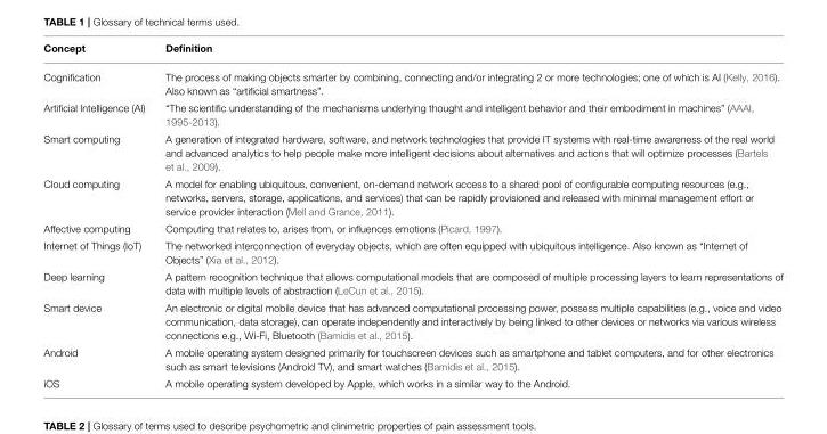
<table><thead><tr><td>Concept</td><td>Definition</td></tr></thead><tbody><tr><td>Cognification</td><td>The process of making objects smarter by combining, connecting and/or integrating 2 or more technologies; one of which is AI (Kelly, 2016). Also known as “artificial smartness”.</td></tr><tr><td>Artificial Intelligence (AI)</td><td>“The scientific understanding of the mechanisms underlying thought and intelligent behavior and their embodiment in machines” (AAAI, 1995-2013).</td></tr><tr><td>Smart computing</td><td>A generation of integrated hardware, software, and network technologies that provide IT systems with real-time awareness of the real world and advanced analytics to help people make more intelligent decisions about alternatives and actions that will optimize processes (Bartels et al., 2009).</td></tr><tr><td>Cloud computing</td><td>A model for enabling ubiquitous, convenient, on-demand network access to a shared pool of configurable computing resources (e.g., networks, servers, storage, applications, and services) that can be rapidly provisioned and released with minimal management effort or service provider interaction (Mell and Grance, 2011).</td></tr><tr><td>Affective computing</td><td>Computing that relates to, arises from, or influences emotions (Picard, 1997).</td></tr><tr><td>Internet of Things (IoT)</td><td>The networked interconnection of everyday objects, which are often equipped with ubiquitous intelligence. Also known as “Internet of Objects” (Xia et al., 2012).</td></tr><tr><td>Deep learning</td><td>A pattern recognition technique that allows computational models that are composed of multiple processing layers to learn representations of data with multiple levels of abstraction (LeCun et al., 2015).</td></tr><tr><td>Smart device</td><td>An electronic or digital mobile device that has advanced computational processing power, possess multiple capabilities (e.g., voice and video communication, data storage), can operate independently and interactively by being linked to other devices or networks via various wireless connections e.g., Wi-Fi, Bluetooth (Bamidis et al., 2015).</td></tr><tr><td>Android</td><td>A mobile operating system designed primarily for touchscreen devices such as smartphone and tablet computers, and for other electronics such as smart televisions (Android TV), and smart watches (Bamidis et al., 2015).</td></tr><tr><td>iOS</td><td>A mobile operating system developed by Apple, which works in a similar way to the Android.</td></tr></tbody></table>